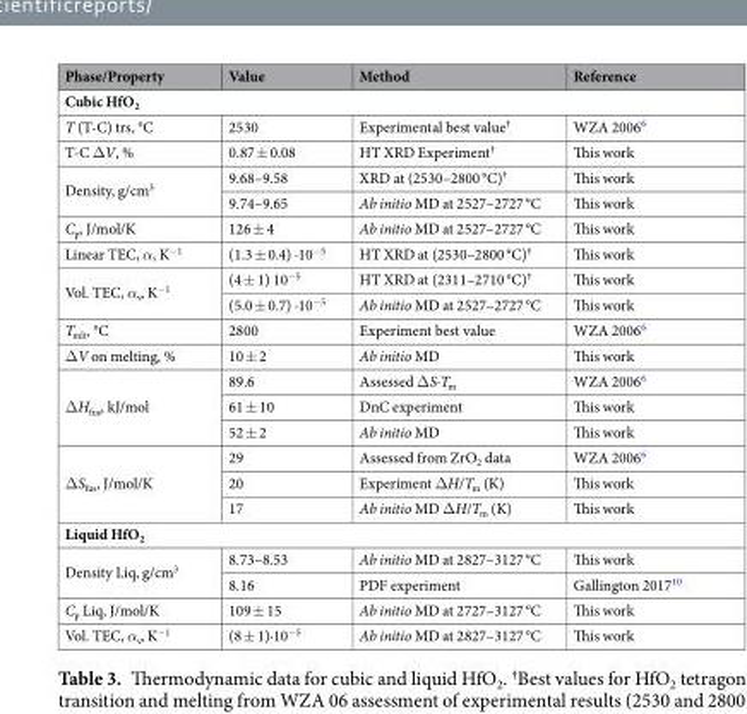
<table><thead><tr><td>Phase/Property</td><td>Value</td><td>Method</td><td>Reference</td></tr></thead><tbody><tr><td colspan="4">Cubic HfO<sub>2</sub></td></tr><tr><td>T (T-C) trs, °C</td><td>2530</td><td>Experimental best value<sup>†</sup></td><td>WZA 2006<sup>6</sup></td></tr><tr><td>T-C ΔV, %</td><td>0.87 ± 0.08</td><td>HT XRD Experiment<sup>†</sup></td><td>This work</td></tr><tr><td rowspan="2">Density, g/cm<sup>3</sup></td><td>9.68–9.58</td><td>XRD at (2530–2800 °C)<sup>†</sup></td><td>This work</td></tr><tr><td>9.74–9.65</td><td>Ab initio MD at 2527–2727 °C</td><td>This work</td></tr><tr><td>C<sub>p</sub>, J/mol/K</td><td>126 ± 4</td><td>Ab initio MD at 2527–2727 °C</td><td>This work</td></tr><tr><td>Linear TEC, α, K<sup>−1</sup></td><td>(1.3 ± 0.4) ·10<sup>−5</sup></td><td>HT XRD at (2530–2800 °C)<sup>†</sup></td><td>This work</td></tr><tr><td rowspan="2">Vol. TEC, α<sub>v</sub>, K<sup>−1</sup></td><td>(4 ± 1) 10<sup>−5</sup></td><td>HT XRD at (2311–2710 °C)<sup>†</sup></td><td>This work</td></tr><tr><td>(5.0 ± 0.7) ·10<sup>−5</sup></td><td>Ab initio MD at 2527–2727 °C</td><td>This work</td></tr><tr><td>T<sub>mlt</sub>, °C</td><td>2800</td><td>Experiment best value</td><td>WZA 2006<sup>6</sup></td></tr><tr><td>ΔV on melting, %</td><td>10 ± 2</td><td>Ab initio MD</td><td>This work</td></tr><tr><td rowspan="3">ΔH<sub>fus</sub>, kJ/mol</td><td>89.6</td><td>Assessed ΔS·T<sub>m</sub></td><td>WZA 2006<sup>6</sup></td></tr><tr><td>61 ± 10</td><td>DnC experiment</td><td>This work</td></tr><tr><td>52 ± 2</td><td>Ab initio MD</td><td>This work</td></tr><tr><td rowspan="3">ΔS<sub>fus</sub>, J/mol/K</td><td>29</td><td>Assessed from ZrO<sub>2</sub> data</td><td>WZA 2006<sup>6</sup></td></tr><tr><td>20</td><td>Experiment ΔH/T<sub>m</sub> (K)</td><td>This work</td></tr><tr><td>17</td><td>Ab initio MD ΔH/T<sub>m</sub> (K)</td><td>This work</td></tr><tr><td colspan="4">Liquid HfO<sub>2</sub></td></tr><tr><td rowspan="2">Density Liq, g/cm<sup>3</sup></td><td>8.73–8.53</td><td>Ab initio MD at 2827–3127 °C</td><td>This work</td></tr><tr><td>8.16</td><td>PDF experiment</td><td>Gallington 2017<sup>10</sup></td></tr><tr><td>C<sub>p</sub> Liq, J/mol/K</td><td>109 ± 15</td><td>Ab initio MD at 2727–3127 °C</td><td>This work</td></tr><tr><td>Vol. TEC, α<sub>v</sub>, K<sup>−1</sup></td><td>(8 ± 1)·10<sup>−5</sup></td><td>Ab initio MD at 2827–3127 °C</td><td>This work</td></tr></tbody></table>